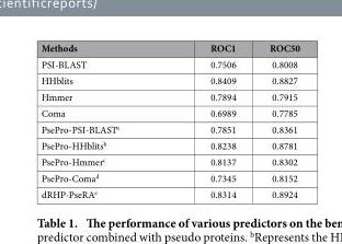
<table><thead><tr><td>Methods</td><td>ROC1</td><td>ROC50</td></tr></thead><tbody><tr><td>PSI-BLAST</td><td>0.7506</td><td>0.8008</td></tr><tr><td>HHblits</td><td>0.8409</td><td>0.8827</td></tr><tr><td>Hmmer</td><td>0.7894</td><td>0.7915</td></tr><tr><td>Coma</td><td>0.6989</td><td>0.7785</td></tr><tr><td>PsePro-PSI-BLAST<sup>a</sup></td><td>0.7851</td><td>0.8361</td></tr><tr><td>PsePro-HHblits<sup>b</sup></td><td>0.8238</td><td>0.8781</td></tr><tr><td>PsePro-Hmmer<sup>c</sup></td><td>0.8137</td><td>0.8302</td></tr><tr><td>PsePro-Coma<sup>d</sup></td><td>0.7345</td><td>0.8152</td></tr><tr><td>dRHP-PseRA<sup>e</sup></td><td>0.8314</td><td>0.8924</td></tr></tbody></table>